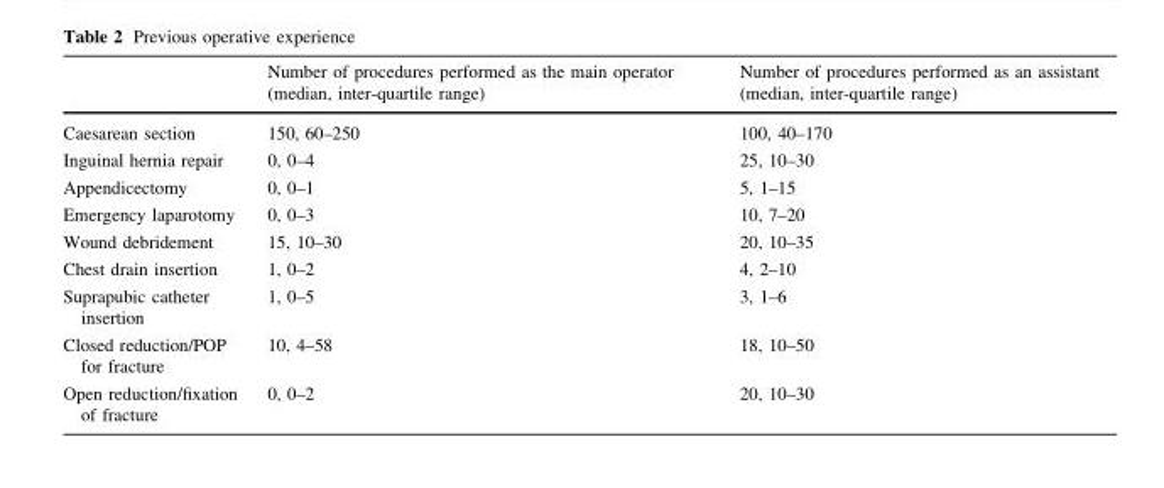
<table><thead><tr><td></td><td>Number of procedures performed as the main operator (median, inter-quartile range)</td><td>Number of procedures performed as an assistant (median, inter-quartile range)</td></tr></thead><tbody><tr><td>Caesarean section</td><td>150, 60–250</td><td>100, 40–170</td></tr><tr><td>Inguinal hernia repair</td><td>0, 0–4</td><td>25, 10–30</td></tr><tr><td>Appendicectomy</td><td>0, 0–1</td><td>5, 1–15</td></tr><tr><td>Emergency laparotomy</td><td>0, 0–3</td><td>10, 7–20</td></tr><tr><td>Wound debridement</td><td>15, 10–30</td><td>20, 10–35</td></tr><tr><td>Chest drain insertion</td><td>1, 0–2</td><td>4, 2–10</td></tr><tr><td>Suprapubic catheter insertion</td><td>1, 0–5</td><td>3, 1–6</td></tr><tr><td>Closed reduction/POP for fracture</td><td>10, 4–58</td><td>18, 10–50</td></tr><tr><td>Open reduction/fixation of fracture</td><td>0, 0–2</td><td>20, 10–30</td></tr></tbody></table>